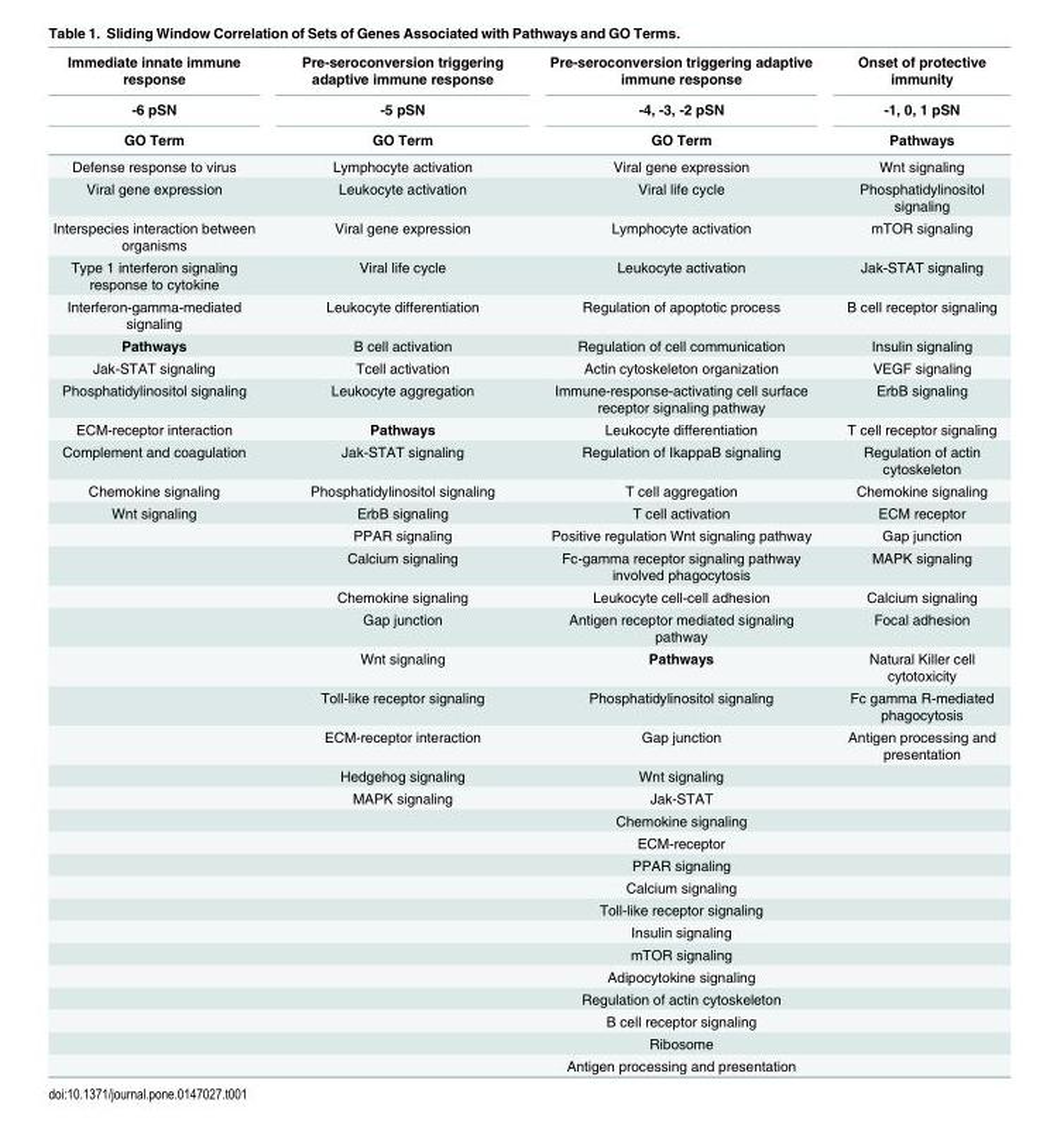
<table><thead><tr><td rowspan="3">Immediate innate immune response -6 pSN GO Term</td><td rowspan="3">Pre-seroconversion triggering adaptive immune response -5 pSN GO Term</td><td rowspan="3">Pre-seroconversion triggering adaptive immune response -4, -3, -2 pSN GO Term</td><td rowspan="3">Onset of protective immunity -1, 0, 1 pSN Pathways</td></tr><tr></tr><tr></tr></thead><tbody><tr><td>Defense response to virus</td><td>Lymphocyte activation</td><td>Viral gene expression</td><td>Wnt signaling</td></tr><tr><td>Viral gene expression</td><td>Leukocyte activation</td><td>Viral life cycle</td><td>Phosphatidylinositol signaling</td></tr><tr><td>Interspecies interaction between organisms</td><td>Viral gene expression</td><td>Lymphocyte activation</td><td>mTOR signaling</td></tr><tr><td>Type 1 interferon signaling response to cytokine</td><td>Viral life cycle</td><td>Leukocyte activation</td><td>Jak-STAT signaling</td></tr><tr><td>Interferon-gamma-mediated signaling</td><td>Leukocyte differentiation</td><td>Regulation of apoptotic process</td><td>B cell receptor signaling</td></tr><tr><td>Pathways</td><td>B cell activation</td><td>Regulation of cell communication</td><td>Insulin signaling</td></tr><tr><td>Jak-STAT signaling</td><td>Tcell activation</td><td>Actin cytoskeleton organization</td><td>VEGF signaling</td></tr><tr><td>Phosphatidylinositol signaling</td><td>Leukocyte aggregation</td><td>Immune-response-activating cell surface receptor signaling pathway</td><td>ErbB signaling</td></tr><tr><td>ECM-receptor interaction</td><td>Pathways</td><td>Leukocyte differentiation</td><td>T cell receptor signaling</td></tr><tr><td>Complement and coagulation</td><td>Jak-STAT signaling</td><td>Regulation of IkappaB signaling</td><td>Regulation of actin cytoskeleton</td></tr><tr><td>Chemokine signaling</td><td>Phosphatidylinositol signaling</td><td>T cell aggregation</td><td>Chemokine signaling</td></tr><tr><td rowspan="22">Wnt signaling</td><td>ErbB signaling</td><td>T cell activation</td><td>ECM receptor</td></tr><tr><td>PPAR signaling</td><td>Positive regulation Wnt signaling pathway</td><td>Gap junction</td></tr><tr><td>Calcium signaling</td><td>Fc-gamma receptor signaling pathway involved phagocytosis</td><td>MAPK signaling</td></tr><tr><td>Chemokine signaling</td><td>Leukocyte cell-cell adhesion</td><td>Calcium signaling</td></tr><tr><td>Gap junction</td><td>Antigen receptor mediated signaling pathway</td><td>Focal adhesion</td></tr><tr><td>Wnt signaling</td><td>Pathways</td><td>Natural Killer cell cytotoxicity</td></tr><tr><td>Toll-like receptor signaling</td><td>Phosphatidylinositol signaling</td><td>Fc gamma R-mediated phagocytosis</td></tr><tr><td>ECM-receptor interaction</td><td>Gap junction</td><td>Antigen processing and presentation</td></tr><tr><td>Hedgehog signaling</td><td>Wnt signaling</td><td></td></tr><tr><td>MAPK signaling</td><td>Jak-STAT</td><td></td></tr><tr><td></td><td>Chemokine signaling</td><td></td></tr><tr><td></td><td>ECM-receptor</td><td></td></tr><tr><td></td><td>PPAR signaling</td><td></td></tr><tr><td></td><td>Calcium signaling</td><td></td></tr><tr><td></td><td>Toll-like receptor signaling</td><td></td></tr><tr><td></td><td>Insulin signaling</td><td></td></tr><tr><td></td><td>mTOR signaling</td><td></td></tr><tr><td></td><td>Adipocytokine signaling</td><td></td></tr><tr><td></td><td>Regulation of actin cytoskeleton</td><td></td></tr><tr><td></td><td>B cell receptor signaling</td><td></td></tr><tr><td></td><td>Ribosome</td><td></td></tr><tr><td></td><td>Antigen processing and presentation</td><td></td></tr></tbody></table>